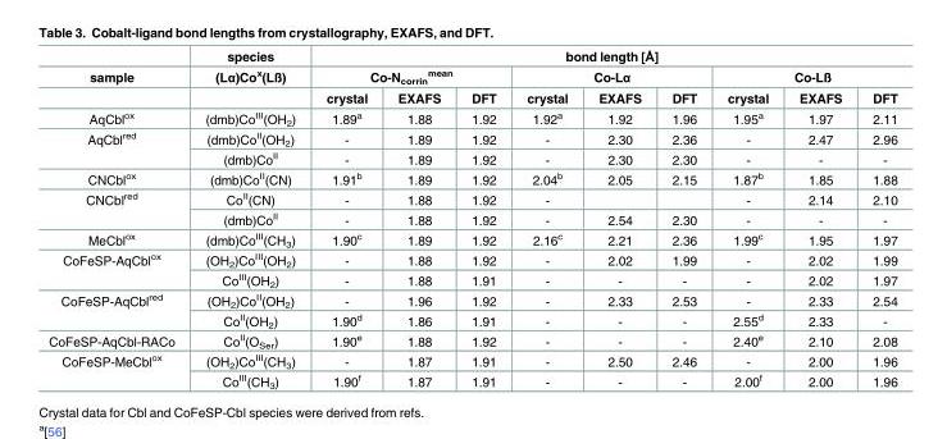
<table><thead><tr><td rowspan="3">sample</td><td rowspan="3">species (Lα)Co<sup>x</sup>(Lß)</td><td colspan="9">bond length [Å]</td></tr><tr><td colspan="3">Co-N<sub>corrin</sub> <sup>mean</sup></td><td colspan="3">Co-Lα</td><td colspan="3">Co-Lß</td></tr><tr><td>crystal</td><td>EXAFS</td><td>DFT</td><td>crystal</td><td>EXAFS</td><td>DFT</td><td>crystal</td><td>EXAFS</td><td>DFT</td></tr></thead><tbody><tr><td>AqCbl<sup>ox</sup></td><td>(dmb)Co<sup>III</sup>(OH<sub>2</sub>)</td><td>1.89<sup>a</sup></td><td>1.88</td><td>1.92</td><td>1.92<sup>a</sup></td><td>1.92</td><td>1.96</td><td>1.95<sup>a</sup></td><td>1.97</td><td>2.11</td></tr><tr><td rowspan="2">AqCbl<sup>red</sup></td><td>(dmb)Co<sup>II</sup>(OH<sub>2</sub>)</td><td>-</td><td>1.89</td><td>1.92</td><td>-</td><td>2.30</td><td>2.36</td><td>-</td><td>2.47</td><td>2.96</td></tr><tr><td>(dmb)Co<sup>II</sup></td><td>-</td><td>1.89</td><td>1.92</td><td>-</td><td>2.30</td><td>2.30</td><td>-</td><td>-</td><td>-</td></tr><tr><td>CNCbl<sup>ox</sup></td><td>(dmb)Co<sup>II</sup>(CN)</td><td>1.91<sup>b</sup></td><td>1.89</td><td>1.92</td><td>2.04<sup>b</sup></td><td>2.05</td><td>2.15</td><td>1.87<sup>b</sup></td><td>1.85</td><td>1.88</td></tr><tr><td rowspan="2">CNCbl<sup>red</sup></td><td>Co<sup>II</sup>(CN)</td><td>-</td><td>1.88</td><td>1.92</td><td>-</td><td></td><td></td><td>-</td><td>2.14</td><td>2.10</td></tr><tr><td>(dmb)Co<sup>II</sup></td><td>-</td><td>1.88</td><td>1.92</td><td>-</td><td>2.54</td><td>2.30</td><td>-</td><td>-</td><td>-</td></tr><tr><td>MeCbl<sup>ox</sup></td><td>(dmb)Co<sup>III</sup>(CH<sub>3</sub>)</td><td>1.90<sup>c</sup></td><td>1.89</td><td>1.92</td><td>2.16<sup>c</sup></td><td>2.21</td><td>2.36</td><td>1.99<sup>c</sup></td><td>1.95</td><td>1.97</td></tr><tr><td rowspan="2">CoFeSP-AqCbl<sup>ox</sup></td><td>(OH<sub>2</sub>)Co<sup>III</sup>(OH<sub>2</sub>)</td><td>-</td><td>1.88</td><td>1.92</td><td>-</td><td>2.02</td><td>1.99</td><td>-</td><td>2.02</td><td>1.99</td></tr><tr><td>Co<sup>III</sup>(OH<sub>2</sub>)</td><td>-</td><td>1.88</td><td>1.91</td><td>-</td><td>-</td><td>-</td><td>-</td><td>2.02</td><td>1.97</td></tr><tr><td rowspan="2">CoFeSP-AqCbl<sup>red</sup></td><td>(OH<sub>2</sub>)Co<sup>II</sup>(OH<sub>2</sub>)</td><td>-</td><td>1.96</td><td>1.92</td><td>-</td><td>2.33</td><td>2.53</td><td>-</td><td>2.33</td><td>2.54</td></tr><tr><td>Co<sup>II</sup>(OH<sub>2</sub>)</td><td>1.90<sup>d</sup></td><td>1.86</td><td>1.91</td><td>-</td><td>-</td><td>-</td><td>2.55<sup>d</sup></td><td>2.33</td><td>-</td></tr><tr><td>CoFeSP-AqCbl-RACo</td><td>Co<sup>II</sup>(O<sub>Ser</sub>)</td><td>1.90<sup>e</sup></td><td>1.88</td><td>1.92</td><td>-</td><td>-</td><td>-</td><td>2.40<sup>e</sup></td><td>2.10</td><td>2.08</td></tr><tr><td rowspan="2">CoFeSP-MeCbl<sup>ox</sup></td><td>(OH<sub>2</sub>)Co<sup>III</sup>(CH<sub>3</sub>)</td><td>-</td><td>1.87</td><td>1.91</td><td>-</td><td>2.50</td><td>2.46</td><td>-</td><td>2.00</td><td>1.96</td></tr><tr><td>Co<sup>III</sup>(CH<sub>3</sub>)</td><td>1.90<sup>f</sup></td><td>1.87</td><td>1.91</td><td>-</td><td>-</td><td>-</td><td>2.00<sup>f</sup></td><td>2.00</td><td>1.96</td></tr></tbody></table>